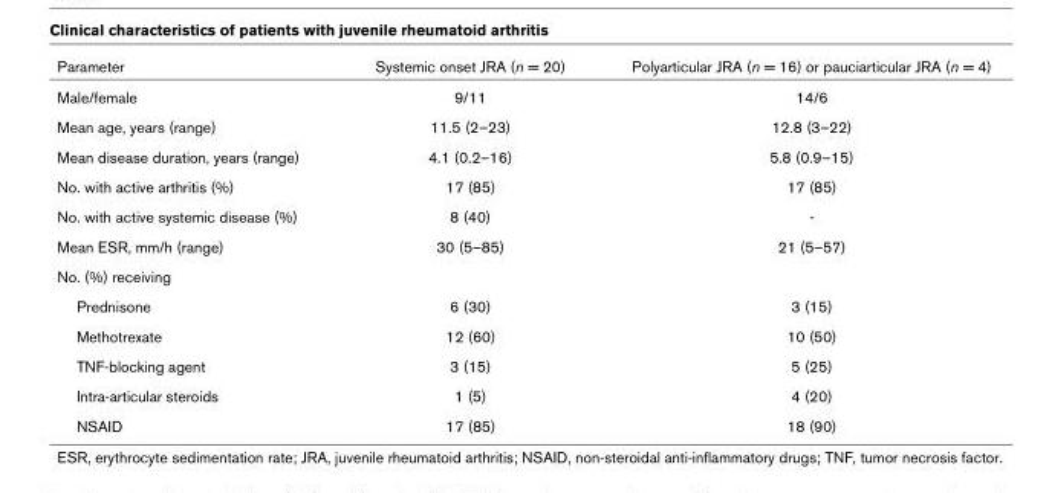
<table><thead><tr><td>Parameter</td><td>Systemic onset JRA (n = 20)</td><td>Polyarticular JRA (n = 16) or pauciarticular JRA (n = 4)</td></tr></thead><tbody><tr><td>Male/female</td><td>9/11</td><td>14/6</td></tr><tr><td>Mean age, years (range)</td><td>11.5 (2–23)</td><td>12.8 (3–22)</td></tr><tr><td>Mean disease duration, years (range)</td><td>4.1 (0.2–16)</td><td>5.8 (0.9–15)</td></tr><tr><td>No. with active arthritis (%)</td><td>17 (85)</td><td>17 (85)</td></tr><tr><td>No. with active systemic disease (%)</td><td>8 (40)</td><td>-</td></tr><tr><td>Mean ESR, mm/h (range)</td><td>30 (5–85)</td><td>21 (5–57)</td></tr><tr><td colspan="3">No. (%) receiving</td></tr><tr><td>Prednisone</td><td>6 (30)</td><td>3 (15)</td></tr><tr><td>Methotrexate</td><td>12 (60)</td><td>10 (50)</td></tr><tr><td>TNF-blocking agent</td><td>3 (15)</td><td>5 (25)</td></tr><tr><td>Intra-articular steroids</td><td>1 (5)</td><td>4 (20)</td></tr><tr><td>NSAID</td><td>17 (85)</td><td>18 (90)</td></tr></tbody></table>